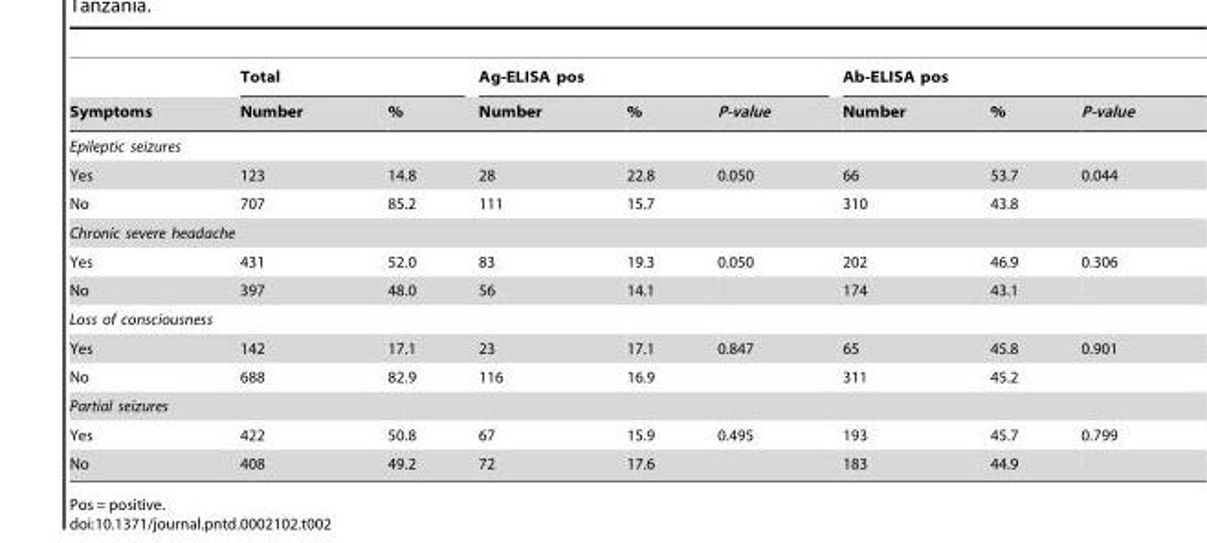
<table><thead><tr><td rowspan="2">Symptoms</td><td colspan="2">Total</td><td colspan="3">Ag-ELISA pos</td><td colspan="3">Ab-ELISA pos</td></tr><tr><td>Number</td><td>%</td><td>Number</td><td>%</td><td>P-value</td><td>Number</td><td>%</td><td>P-value</td></tr></thead><tbody><tr><td colspan="9">Epileptic seizures</td></tr><tr><td>Yes</td><td>123</td><td>14.8</td><td>28</td><td>22.8</td><td>0.050</td><td>66</td><td>53.7</td><td>0.044</td></tr><tr><td>No</td><td>707</td><td>85.2</td><td>111</td><td>15.7</td><td></td><td>310</td><td>43.8</td><td></td></tr><tr><td colspan="9">Chronic severe headache</td></tr><tr><td>Yes</td><td>431</td><td>52.0</td><td>83</td><td>19.3</td><td>0.050</td><td>202</td><td>46.9</td><td>0.306</td></tr><tr><td>No</td><td>397</td><td>48.0</td><td>56</td><td>14.1</td><td></td><td>174</td><td>43.1</td><td></td></tr><tr><td colspan="9">Loss of consciousness</td></tr><tr><td>Yes</td><td>142</td><td>17.1</td><td>23</td><td>17.1</td><td>0.847</td><td>65</td><td>45.8</td><td>0.901</td></tr><tr><td>No</td><td>688</td><td>82.9</td><td>116</td><td>16.9</td><td></td><td>311</td><td>45.2</td><td></td></tr><tr><td colspan="9">Partial seizures</td></tr><tr><td>Yes</td><td>422</td><td>50.8</td><td>67</td><td>15.9</td><td>0.495</td><td>193</td><td>45.7</td><td>0.799</td></tr><tr><td>No</td><td>408</td><td>49.2</td><td>72</td><td>17.6</td><td></td><td>183</td><td>44.9</td><td></td></tr></tbody></table>